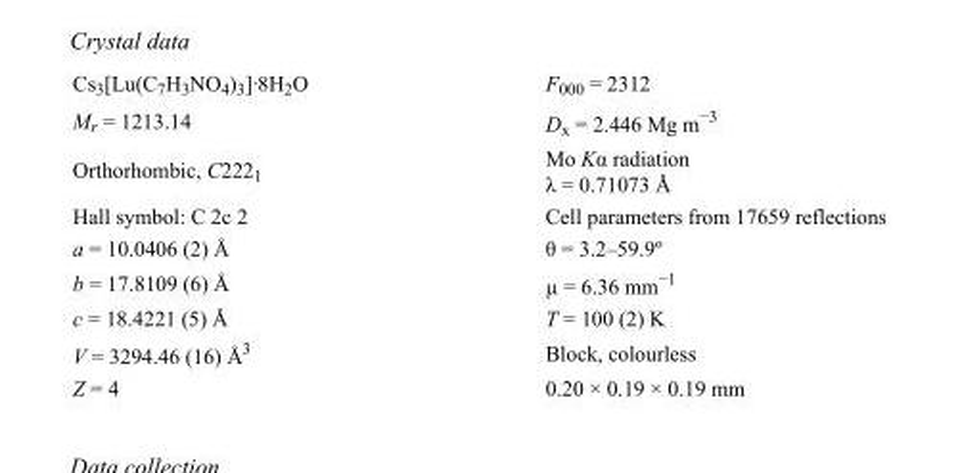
<table><tbody><tr><td>Cs<sub>3</sub>[Lu(C<sub>7</sub>H<sub>3</sub>NO<sub>4</sub>)<sub>3</sub>]·8H<sub>2</sub>O</td><td>F000 = 2312</td></tr><tr><td>M<sub>r</sub> = 1213.14</td><td>D<sub>x</sub> = 2.446 Mg m<sup>−3</sup></td></tr><tr><td>Orthorhombic, C222<sub>1</sub></td><td>Mo Kα radiation λ = 0.71073 Å</td></tr><tr><td>Hall symbol: C 2c 2</td><td>Cell parameters from 17659 reflections</td></tr><tr><td>a = 10.0406 (2) Å</td><td>θ = 3.2–59.9º</td></tr><tr><td>b = 17.8109 (6) Å</td><td>µ = 6.36 mm<sup>−1</sup></td></tr><tr><td>c = 18.4221 (5) Å</td><td>T = 100 (2) K</td></tr><tr><td>V = 3294.46 (16) Å<sup>3</sup></td><td>Block, colourless</td></tr><tr><td>Z = 4</td><td>0.20 × 0.19 × 0.19 mm</td></tr></tbody></table>